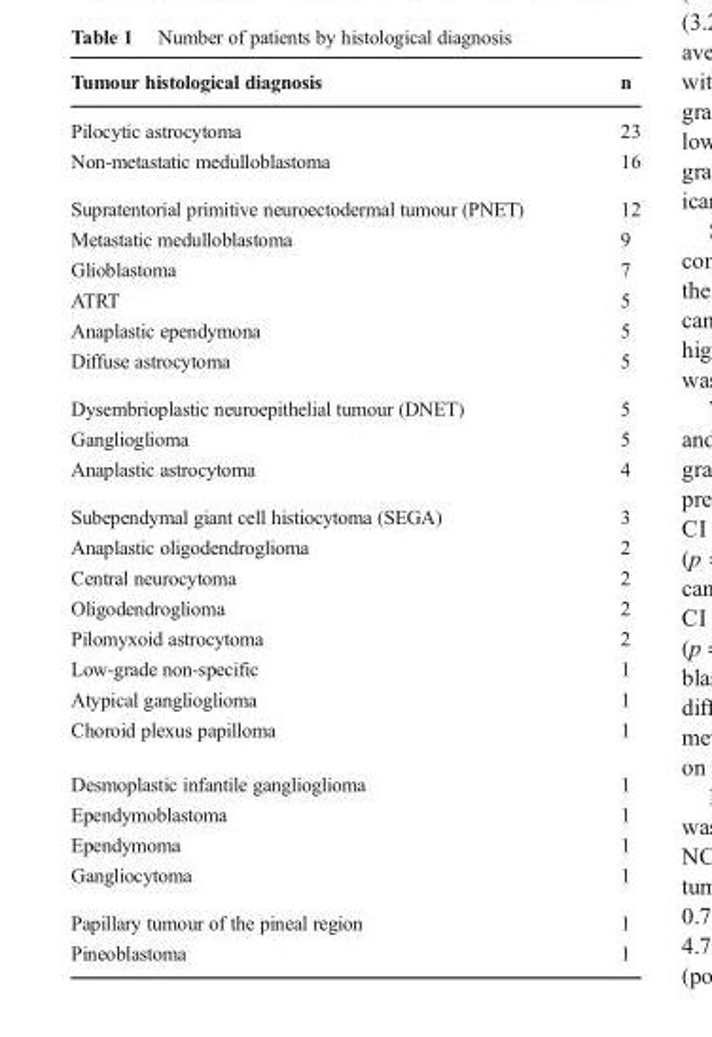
<table><thead><tr><td>Tumour histological diagnosis</td><td>n</td></tr></thead><tbody><tr><td>Pilocytic astrocytoma</td><td>23</td></tr><tr><td>Non-metastatic medulloblastoma</td><td>16</td></tr><tr><td>Supratentorial primitive neuroectodermal tumour (PNET)</td><td>12</td></tr><tr><td>Metastatic medulloblastoma</td><td>9</td></tr><tr><td>Glioblastoma</td><td>7</td></tr><tr><td>ATRT</td><td>5</td></tr><tr><td>Anaplastic ependymona</td><td>5</td></tr><tr><td>Diffuse astrocytoma</td><td>5</td></tr><tr><td>Dysembrioplastic neuroepithelial tumour (DNET)</td><td>5</td></tr><tr><td>Ganglioglioma</td><td>5</td></tr><tr><td>Anaplastic astrocytoma</td><td>4</td></tr><tr><td>Subependymal giant cell histiocytoma (SEGA)</td><td>3</td></tr><tr><td>Anaplastic oligodendroglioma</td><td>2</td></tr><tr><td>Central neurocytoma</td><td>2</td></tr><tr><td>Oligodendroglioma</td><td>2</td></tr><tr><td>Pilomyxoid astrocytoma</td><td>2</td></tr><tr><td>Low-grade non-specific</td><td>1</td></tr><tr><td>Atypical ganglioglioma</td><td>1</td></tr><tr><td>Choroid plexus papilloma</td><td>1</td></tr><tr><td>Desmoplastic infantile ganglioglioma</td><td>1</td></tr><tr><td>Ependymoblastoma</td><td>1</td></tr><tr><td>Ependymoma</td><td>1</td></tr><tr><td>Gangliocytoma</td><td>1</td></tr><tr><td>Papillary tumour of the pineal region</td><td>1</td></tr><tr><td>Pineoblastoma</td><td>1</td></tr></tbody></table>